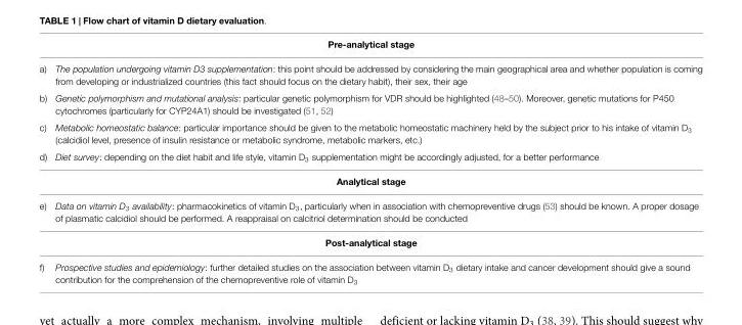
<table><thead><tr><td colspan="2">Pre-analytical stage</td></tr><tr><td>a)</td><td>The population undergoing vitamin D3 supplementation: this point should be addressed by considering the main geographical area and whether population is coming from developing or industrialized countries (this fact should focus on the dietary habit), their sex, their age</td></tr></thead><tbody><tr><td>b)</td><td>Genetic polymorphism and mutational analysis: particular genetic polymorphism for VDR should be highlighted (48–50). Moreover, genetic mutations for P450 cytochromes (particularly for CYP24A1) should be investigated (51, 52)</td></tr><tr><td>c)</td><td>Metabolic homeostatic balance: particular importance should be given to the metabolic homeostatic machinery held by the subject prior to his intake of vitamin D<sub>3</sub> (calcidiol level, presence of insulin resistance or metabolic syndrome, metabolic markers, etc.)</td></tr><tr><td>d)</td><td>Diet survey: depending on the diet habit and life style, vitamin D<sub>3</sub> supplementation might be accordingly adjusted, for a better performance</td></tr><tr><td colspan="2">Analytical stage</td></tr><tr><td>e)</td><td>Data on vitamin D<sub>3</sub> availability: pharmacokinetics of vitamin D<sub>3</sub>, particularly when in association with chemopreventive drugs (53) should be known. A proper dosage of plasmatic calcidiol should be performed. A reappraisal on calcitriol determination should be conducted</td></tr><tr><td colspan="2">Post-analytical stage</td></tr><tr><td>f)</td><td>Prospective studies and epidemiology: further detailed studies on the association between vitamin D<sub>3</sub> dietary intake and cancer development should give a sound contribution for the comprehension of the chemopreventive role of vitamin D<sub>3</sub></td></tr></tbody></table>